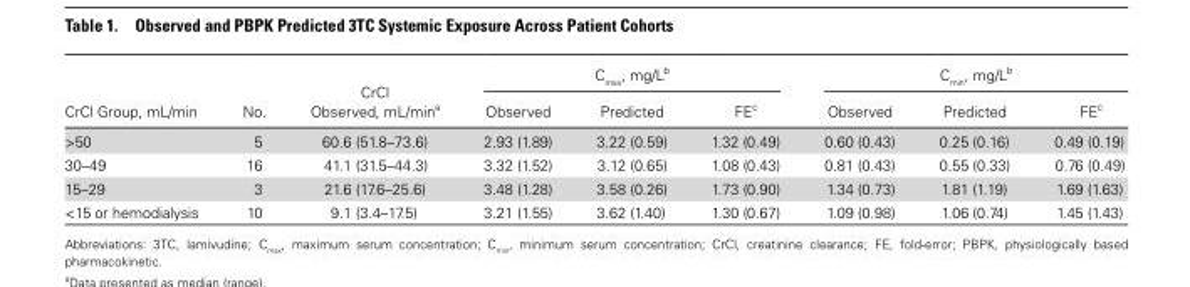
<table><thead><tr><td rowspan="2">CrCl Group, mL/min</td><td rowspan="2">No.</td><td rowspan="2">CrCl Observed, mL/min<sup>a</sup></td><td colspan="3">C<sub>max</sub>, mg/L<sup>b</sup></td><td colspan="3">C<sub>min</sub>, mg/L<sup>b</sup></td></tr><tr><td>Observed</td><td>Predicted</td><td>FE<sup>c</sup></td><td>Observed</td><td>Predicted</td><td>FE<sup>c</sup></td></tr></thead><tbody><tr><td>&gt;50</td><td>5</td><td>60.6 (51.8–73.6)</td><td>2.93 (1.89)</td><td>3.22 (0.59)</td><td>1.32 (0.49)</td><td>0.60 (0.43)</td><td>0.25 (0.16)</td><td>0.49 (0.19)</td></tr><tr><td>30–49</td><td>16</td><td>41.1 (31.5–44.3)</td><td>3.32 (1.52)</td><td>3.12 (0.65)</td><td>1.08 (0.43)</td><td>0.81 (0.43)</td><td>0.55 (0.33)</td><td>0.76 (0.49)</td></tr><tr><td>15–29</td><td>3</td><td>21.6 (17.6–25.6)</td><td>3.48 (1.28)</td><td>3.58 (0.26)</td><td>1.73 (0.90)</td><td>1.34 (0.73)</td><td>1.81 (1.19)</td><td>1.69 (1.63)</td></tr><tr><td>&lt;15 or hemodialysis</td><td>10</td><td>9.1 (3.4–17.5)</td><td>3.21 (1.55)</td><td>3.62 (1.40)</td><td>1.30 (0.67)</td><td>1.09 (0.98)</td><td>1.06 (0.74)</td><td>1.45 (1.43)</td></tr></tbody></table>